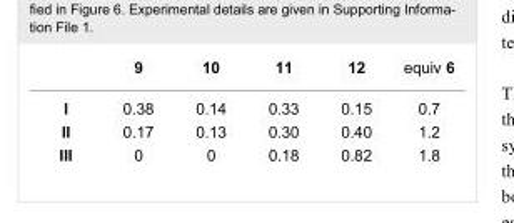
<table><thead><tr><td></td><td>9</td><td>10</td><td>11</td><td>12</td><td>equiv 6</td></tr></thead><tbody><tr><td>I</td><td>0.38</td><td>0.14</td><td>0.33</td><td>0.15</td><td>0.7</td></tr><tr><td>II</td><td>0.17</td><td>0.13</td><td>0.30</td><td>0.40</td><td>1.2</td></tr><tr><td>III</td><td>0</td><td>0</td><td>0.18</td><td>0.82</td><td>1.8</td></tr></tbody></table>